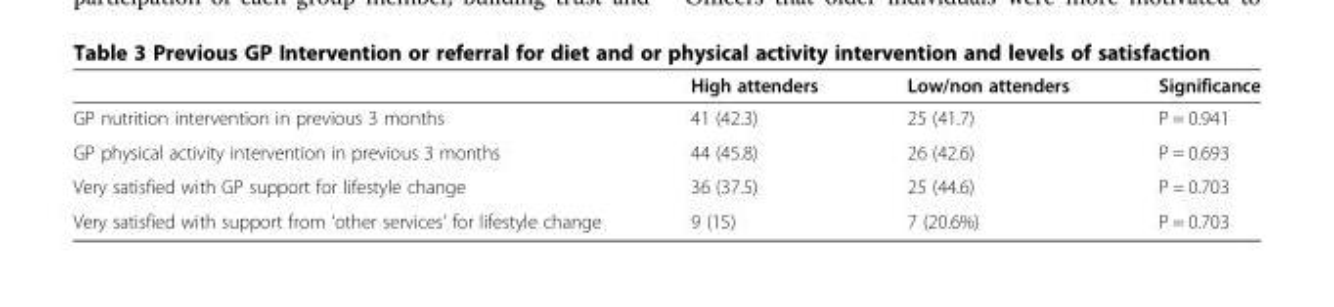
<table><thead><tr><td></td><td>High attenders</td><td>Low/non attenders</td><td>Significance</td></tr></thead><tbody><tr><td>GP nutrition intervention in previous 3 months</td><td>41 (42.3)</td><td>25 (41.7)</td><td>P = 0.941</td></tr><tr><td>GP physical activity intervention in previous 3 months</td><td>44 (45.8)</td><td>26 (42.6)</td><td>P = 0.693</td></tr><tr><td>Very satisfied with GP support for lifestyle change</td><td>36 (37.5)</td><td>25 (44.6)</td><td>P = 0.703</td></tr><tr><td>Very satisfied with support from ‘other services’ for lifestyle change</td><td>9 (15)</td><td>7 (20.6%)</td><td>P = 0.703</td></tr></tbody></table>